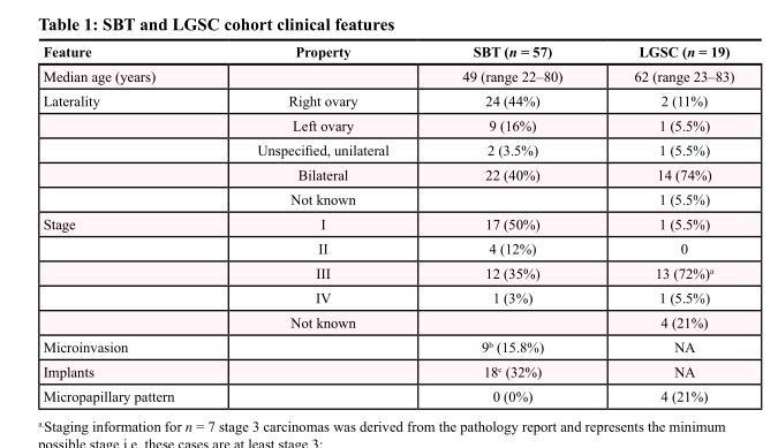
<table><thead><tr><td>Feature</td><td>Property</td><td>SBT (n = 57)</td><td>LGSC (n = 19)</td></tr></thead><tbody><tr><td>Median age (years)</td><td></td><td>49 (range 22–80)</td><td>62 (range 23–83)</td></tr><tr><td rowspan="5">Laterality</td><td>Right ovary</td><td>24 (44%)</td><td>2 (11%)</td></tr><tr><td>Left ovary</td><td>9 (16%)</td><td>1 (5.5%)</td></tr><tr><td>Unspecified, unilateral</td><td>2 (3.5%)</td><td>1 (5.5%)</td></tr><tr><td>Bilateral</td><td>22 (40%)</td><td>14 (74%)</td></tr><tr><td>Not known</td><td></td><td>1 (5.5%)</td></tr><tr><td rowspan="5">Stage</td><td>I</td><td>17 (50%)</td><td>1 (5.5%)</td></tr><tr><td>II</td><td>4 (12%)</td><td>0</td></tr><tr><td>III</td><td>12 (35%)</td><td>13 (72%)<sup>a</sup></td></tr><tr><td>IV</td><td>1 (3%)</td><td>1 (5.5%)</td></tr><tr><td>Not known</td><td></td><td>4 (21%)</td></tr><tr><td>Microinvasion</td><td></td><td>9<sup>b</sup> (15.8%)</td><td>NA</td></tr><tr><td>Implants</td><td></td><td>18<sup>c</sup> (32%)</td><td>NA</td></tr><tr><td>Micropapillary pattern</td><td></td><td>0 (0%)</td><td>4 (21%)</td></tr></tbody></table>